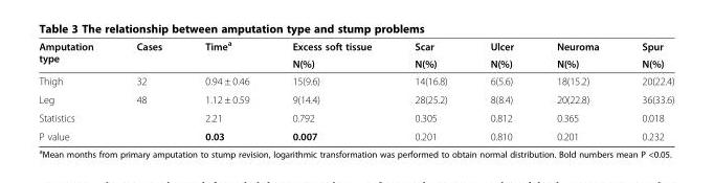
<table><thead><tr><td rowspan="2">Amputation type</td><td rowspan="2">Cases</td><td rowspan="2">Time<sup>a</sup></td><td rowspan="2">Excess soft tissue N(%)</td><td rowspan="2">Scar N(%)</td><td rowspan="2">Ulcer N(%)</td><td rowspan="2">Neuroma N(%)</td><td rowspan="2">Spur N(%)</td></tr><tr></tr></thead><tbody><tr><td>Thigh</td><td>32</td><td>0.94 ± 0.46</td><td>15(9.6)</td><td>14(16.8)</td><td>6(5.6)</td><td>18(15.2)</td><td>20(22.4)</td></tr><tr><td>Leg</td><td>48</td><td>1.12 ± 0.59</td><td>9(14.4)</td><td>28(25.2)</td><td>8(8.4)</td><td>20(22.8)</td><td>36(33.6)</td></tr><tr><td>Statistics</td><td></td><td>2.21</td><td>0.792</td><td>0.305</td><td>0.812</td><td>0.365</td><td>0.018</td></tr><tr><td>P value</td><td></td><td>0.03</td><td>0.007</td><td>0.201</td><td>0.810</td><td>0.201</td><td>0.232</td></tr></tbody></table>